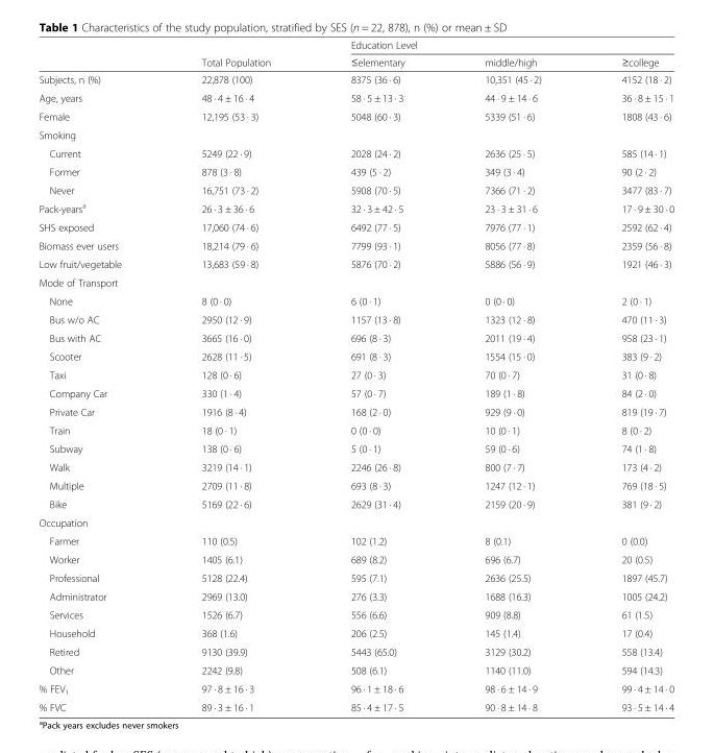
<table><thead><tr><td rowspan="2"></td><td rowspan="2">Total Population</td><td colspan="3">Education Level</td></tr><tr><td>≤elementary</td><td>middle/high</td><td>≥college</td></tr></thead><tbody><tr><td>Subjects, n (%)</td><td>22,878 (100)</td><td>8375 (36 · 6)</td><td>10,351 (45 · 2)</td><td>4152 (18 · 2)</td></tr><tr><td>Age, years</td><td>48 · 4 ± 16 · 4</td><td>58 · 5 ± 13 · 3</td><td>44 · 9 ± 14 · 6</td><td>36 · 8 ± 15 · 1</td></tr><tr><td>Female</td><td>12,195 (53 · 3)</td><td>5048 (60 · 3)</td><td>5339 (51 · 6)</td><td>1808 (43 · 6)</td></tr><tr><td colspan="5">Smoking</td></tr><tr><td>Current</td><td>5249 (22 · 9)</td><td>2028 (24 · 2)</td><td>2636 (25 · 5)</td><td>585 (14 · 1)</td></tr><tr><td>Former</td><td>878 (3 · 8)</td><td>439 (5 · 2)</td><td>349 (3 · 4)</td><td>90 (2 · 2)</td></tr><tr><td>Never</td><td>16,751 (73 · 2)</td><td>5908 (70 · 5)</td><td>7366 (71 · 2)</td><td>3477 (83 · 7)</td></tr><tr><td>Pack-years<sup>a</sup></td><td>26 · 3 ± 36 · 6</td><td>32 · 3 ± 42 · 5</td><td>23 · 3 ± 31 · 6</td><td>17 · 9 ± 30 · 0</td></tr><tr><td>SHS exposed</td><td>17,060 (74 · 6)</td><td>6492 (77 · 5)</td><td>7976 (77 · 1)</td><td>2592 (62 · 4)</td></tr><tr><td>Biomass ever users</td><td>18,214 (79 · 6)</td><td>7799 (93 · 1)</td><td>8056 (77 · 8)</td><td>2359 (56 · 8)</td></tr><tr><td>Low fruit/vegetable</td><td>13,683 (59 · 8)</td><td>5876 (70 · 2)</td><td>5886 (56 · 9)</td><td>1921 (46 · 3)</td></tr><tr><td colspan="5">Mode of Transport</td></tr><tr><td>None</td><td>8 (0 · 0)</td><td>6 (0 · 1)</td><td>0 (0 · 0)</td><td>2 (0 · 1)</td></tr><tr><td>Bus w/o AC</td><td>2950 (12 · 9)</td><td>1157 (13 · 8)</td><td>1323 (12 · 8)</td><td>470 (11 · 3)</td></tr><tr><td>Bus with AC</td><td>3665 (16 · 0)</td><td>696 (8 · 3)</td><td>2011 (19 · 4)</td><td>958 (23 · 1)</td></tr><tr><td>Scooter</td><td>2628 (11 · 5)</td><td>691 (8 · 3)</td><td>1554 (15 · 0)</td><td>383 (9 · 2)</td></tr><tr><td>Taxi</td><td>128 (0 · 6)</td><td>27 (0 · 3)</td><td>70 (0 · 7)</td><td>31 (0 · 8)</td></tr><tr><td>Company Car</td><td>330 (1 · 4)</td><td>57 (0 · 7)</td><td>189 (1 · 8)</td><td>84 (2 · 0)</td></tr><tr><td>Private Car</td><td>1916 (8 · 4)</td><td>168 (2 · 0)</td><td>929 (9 · 0)</td><td>819 (19 · 7)</td></tr><tr><td>Train</td><td>18 (0 · 1)</td><td>0 (0 · 0)</td><td>10 (0 · 1)</td><td>8 (0 · 2)</td></tr><tr><td>Subway</td><td>138 (0 · 6)</td><td>5 (0 · 1)</td><td>59 (0 · 6)</td><td>74 (1 · 8)</td></tr><tr><td>Walk</td><td>3219 (14 · 1)</td><td>2246 (26 · 8)</td><td>800 (7 · 7)</td><td>173 (4 · 2)</td></tr><tr><td>Multiple</td><td>2709 (11 · 8)</td><td>693 (8 · 3)</td><td>1247 (12 · 1)</td><td>769 (18 · 5)</td></tr><tr><td>Bike</td><td>5169 (22 · 6)</td><td>2629 (31 · 4)</td><td>2159 (20 · 9)</td><td>381 (9 · 2)</td></tr><tr><td colspan="5">Occupation</td></tr><tr><td>Farmer</td><td>110 (0.5)</td><td>102 (1.2)</td><td>8 (0.1)</td><td>0 (0.0)</td></tr><tr><td>Worker</td><td>1405 (6.1)</td><td>689 (8.2)</td><td>696 (6.7)</td><td>20 (0.5)</td></tr><tr><td>Professional</td><td>5128 (22.4)</td><td>595 (7.1)</td><td>2636 (25.5)</td><td>1897 (45.7)</td></tr><tr><td>Administrator</td><td>2969 (13.0)</td><td>276 (3.3)</td><td>1688 (16.3)</td><td>1005 (24.2)</td></tr><tr><td>Services</td><td>1526 (6.7)</td><td>556 (6.6)</td><td>909 (8.8)</td><td>61 (1.5)</td></tr><tr><td>Household</td><td>368 (1.6)</td><td>206 (2.5)</td><td>145 (1.4)</td><td>17 (0.4)</td></tr><tr><td>Retired</td><td>9130 (39.9)</td><td>5443 (65.0)</td><td>3129 (30.2)</td><td>558 (13.4)</td></tr><tr><td>Other</td><td>2242 (9.8)</td><td>508 (6.1)</td><td>1140 (11.0)</td><td>594 (14.3)</td></tr><tr><td>% FEV<sub>1</sub></td><td>97 · 8 ± 16 · 3</td><td>96 · 1 ± 18 · 6</td><td>98 · 6 ± 14 · 9</td><td>99 · 4 ± 14 · 0</td></tr><tr><td>% FVC</td><td>89 · 3 ± 16 · 1</td><td>85 · 4 ± 17 · 5</td><td>90 · 8 ± 14 · 8</td><td>93 · 5 ± 14 · 4</td></tr></tbody></table>